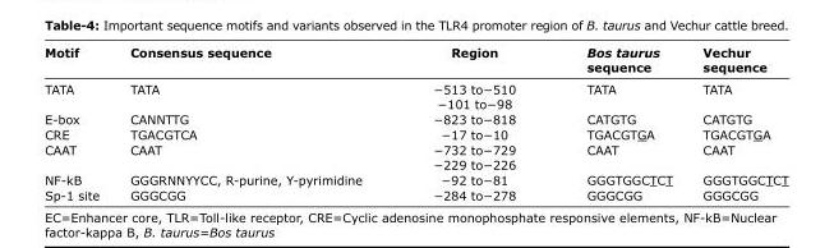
<table><thead><tr><td>Motif</td><td>Consensus sequence</td><td>Region</td><td>Bos taurus sequence</td><td>Vechur sequence</td></tr></thead><tbody><tr><td>TATA</td><td>TATA</td><td>−513 to−510 −101 to−98</td><td>TATA</td><td>TATA</td></tr><tr><td>E-box</td><td>CANNTTG</td><td>−823 to−818</td><td>CATGTG</td><td>CATGTG</td></tr><tr><td>CRE</td><td>TGACGTCA</td><td>−17 to−10</td><td>TGACGTGA</td><td>TGACGTGA</td></tr><tr><td>CAAT</td><td>CAAT</td><td>−732 to−729 −229 to−226</td><td>CAAT</td><td>CAAT</td></tr><tr><td>NF-kB</td><td>GGGRNNYYCC, R-purine, Y-pyrimidine</td><td>−92 to−81</td><td>GGGTGGCTCT</td><td>GGGTGGCTCT</td></tr><tr><td>Sp-1 site</td><td>GGGCGG</td><td>−284 to−278</td><td>GGGCGG</td><td>GGGCGG</td></tr></tbody></table>